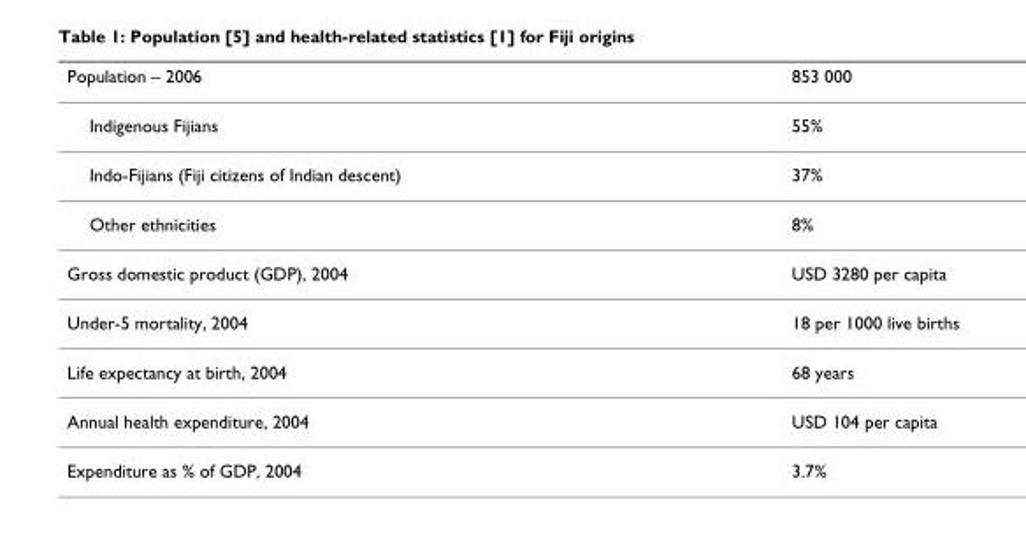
<table><thead><tr><td>Population – 2006</td><td>853 000</td></tr></thead><tbody><tr><td>Indigenous Fijians</td><td>55%</td></tr><tr><td>Indo-Fijians (Fiji citizens of Indian descent)</td><td>37%</td></tr><tr><td>Other ethnicities</td><td>8%</td></tr><tr><td>Gross domestic product (GDP), 2004</td><td>USD 3280 per capita</td></tr><tr><td>Under-5 mortality, 2004</td><td>18 per 1000 live births</td></tr><tr><td>Life expectancy at birth, 2004</td><td>68 years</td></tr><tr><td>Annual health expenditure, 2004</td><td>USD 104 per capita</td></tr><tr><td>Expenditure as % of GDP, 2004</td><td>3.7%</td></tr></tbody></table>